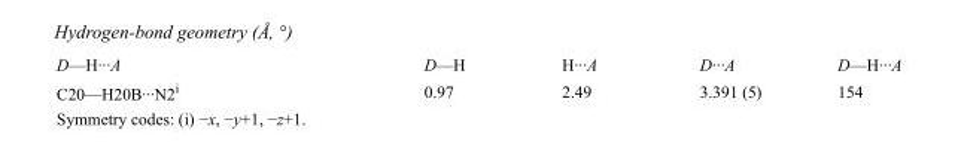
<table><tbody><tr><td>D—H···A</td><td>D—H</td><td>H···A</td><td>D···A</td><td>D—H···A</td></tr><tr><td>C20—H20B···N2<sup>i</sup></td><td>0.97</td><td>2.49</td><td>3.391 (5)</td><td>154</td></tr></tbody></table>